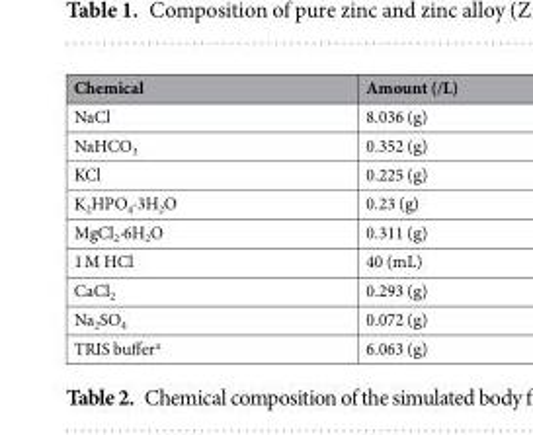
<table><thead><tr><td>Chemical</td><td>Amount (/L)</td></tr></thead><tbody><tr><td>NaCl</td><td>8.036 (g)</td></tr><tr><td>NaHCO<sub>3</sub></td><td>0.352 (g)</td></tr><tr><td>KCl</td><td>0.225 (g)</td></tr><tr><td>K<sub>2</sub>HPO<sub>4</sub>∙3H<sub>2</sub>O</td><td>0.23 (g)</td></tr><tr><td>MgCl<sub>2</sub>∙6H<sub>2</sub>O</td><td>0.311 (g)</td></tr><tr><td>1 M HCl</td><td>40 (mL)</td></tr><tr><td>CaCl<sub>2</sub></td><td>0.293 (g)</td></tr><tr><td>Na<sub>2</sub>SO<sub>4</sub></td><td>0.072 (g)</td></tr><tr><td>TRIS buffer<sup>a</sup></td><td>6.063 (g)</td></tr></tbody></table>